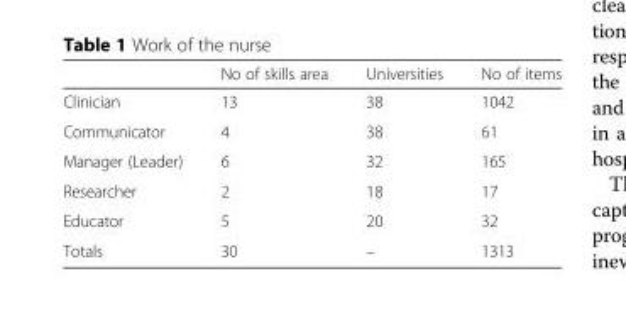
<table><thead><tr><td></td><td>No of skills area</td><td>Universities</td><td>No of items</td></tr></thead><tbody><tr><td>Clinician</td><td>13</td><td>38</td><td>1042</td></tr><tr><td>Communicator</td><td>4</td><td>38</td><td>61</td></tr><tr><td>Manager (Leader)</td><td>6</td><td>32</td><td>165</td></tr><tr><td>Researcher</td><td>2</td><td>18</td><td>17</td></tr><tr><td>Educator</td><td>5</td><td>20</td><td>32</td></tr><tr><td>Totals</td><td>30</td><td>–</td><td>1313</td></tr></tbody></table>